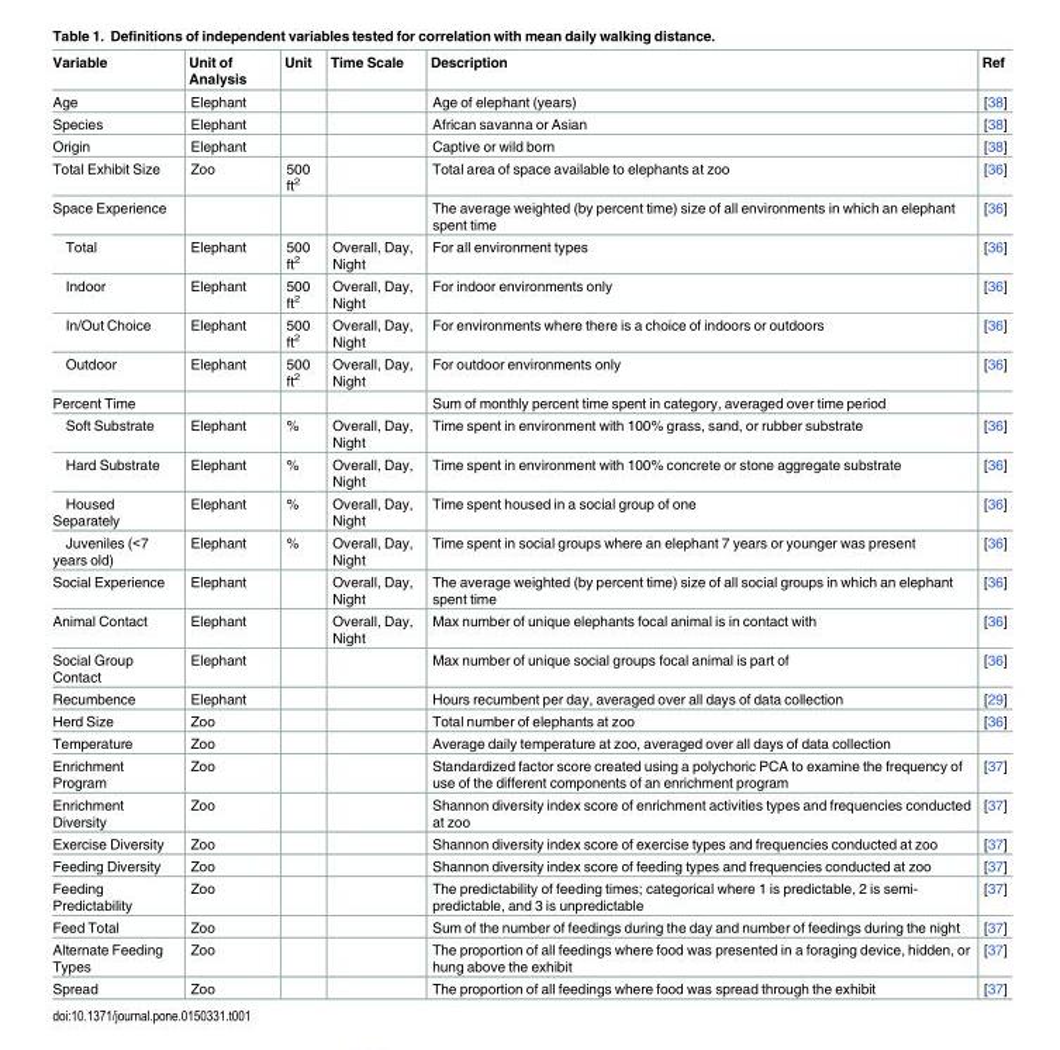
<table><thead><tr><td>Variable</td><td>Unit of Analysis</td><td>Unit</td><td>Time Scale</td><td>Description</td><td>Ref</td></tr></thead><tbody><tr><td>Age</td><td>Elephant</td><td></td><td></td><td>Age of elephant (years)</td><td>[38]</td></tr><tr><td>Species</td><td>Elephant</td><td></td><td></td><td>African savanna or Asian</td><td>[38]</td></tr><tr><td>Origin</td><td>Elephant</td><td></td><td></td><td>Captive or wild born</td><td>[38]</td></tr><tr><td>Total Exhibit Size</td><td>Zoo</td><td>500 ft<sup>2</sup></td><td></td><td>Total area of space available to elephants at zoo</td><td>[36]</td></tr><tr><td>Space Experience</td><td></td><td></td><td></td><td>The average weighted (by percent time) size of all environments in which an elephant spent time</td><td>[36]</td></tr><tr><td>Total</td><td>Elephant</td><td>500 ft<sup>2</sup></td><td>Overall, Day, Night</td><td>For all environment types</td><td>[36]</td></tr><tr><td>Indoor</td><td>Elephant</td><td>500 ft<sup>2</sup></td><td>Overall, Day, Night</td><td>For indoor environments only</td><td>[36]</td></tr><tr><td>In/Out Choice</td><td>Elephant</td><td>500 ft<sup>2</sup></td><td>Overall, Day, Night</td><td>For environments where there is a choice of indoors or outdoors</td><td>[36]</td></tr><tr><td>Outdoor</td><td>Elephant</td><td>500 ft<sup>2</sup></td><td>Overall, Day, Night</td><td>For outdoor environments only</td><td>[36]</td></tr><tr><td>Percent Time</td><td></td><td></td><td></td><td>Sum of monthly percent time spent in category, averaged over time period</td><td></td></tr><tr><td>Soft Substrate</td><td>Elephant</td><td>%</td><td>Overall, Day, Night</td><td>Time spent in environment with 100% grass, sand, or rubber substrate</td><td>[36]</td></tr><tr><td>Hard Substrate</td><td>Elephant</td><td>%</td><td>Overall, Day, Night</td><td>Time spent in environment with 100% concrete or stone aggregate substrate</td><td>[36]</td></tr><tr><td>Housed Separately</td><td>Elephant</td><td>%</td><td>Overall, Day, Night</td><td>Time spent housed in a social group of one</td><td>[36]</td></tr><tr><td>Juveniles (&lt;7 years old)</td><td>Elephant</td><td>%</td><td>Overall, Day, Night</td><td>Time spent in social groups where an elephant 7 years or younger was present</td><td>[36]</td></tr><tr><td>Social Experience</td><td>Elephant</td><td></td><td>Overall, Day, Night</td><td>The average weighted (by percent time) size of all social groups in which an elephant spent time</td><td>[36]</td></tr><tr><td>Animal Contact</td><td>Elephant</td><td></td><td>Overall, Day, Night</td><td>Max number of unique elephants focal animal is in contact with</td><td>[36]</td></tr><tr><td>Social Group Contact</td><td>Elephant</td><td></td><td></td><td>Max number of unique social groups focal animal is part of</td><td>[36]</td></tr><tr><td>Recumbence</td><td>Elephant</td><td></td><td></td><td>Hours recumbent per day, averaged over all days of data collection</td><td>[29]</td></tr><tr><td>Herd Size</td><td>Zoo</td><td></td><td></td><td>Total number of elephants at zoo</td><td>[36]</td></tr><tr><td>Temperature</td><td>Zoo</td><td></td><td></td><td>Average daily temperature at zoo, averaged over all days of data collection</td><td></td></tr><tr><td>Enrichment Program</td><td>Zoo</td><td></td><td></td><td>Standardized factor score created using a polychoric PCA to examine the frequency of use of the different components of an enrichment program</td><td>[37]</td></tr><tr><td>Enrichment Diversity</td><td>Zoo</td><td></td><td></td><td>Shannon diversity index score of enrichment activities types and frequencies conducted at zoo</td><td>[37]</td></tr><tr><td>Exercise Diversity</td><td>Zoo</td><td></td><td></td><td>Shannon diversity index score of exercise types and frequencies conducted at zoo</td><td>[37]</td></tr><tr><td>Feeding Diversity</td><td>Zoo</td><td></td><td></td><td>Shannon diversity index score of feeding types and frequencies conducted at zoo</td><td>[37]</td></tr><tr><td>Feeding Predictability</td><td>Zoo</td><td></td><td></td><td>The predictability of feeding times; categorical where 1 is predictable, 2 is semi- predictable, and 3 is unpredictable</td><td>[37]</td></tr><tr><td>Feed Total</td><td>Zoo</td><td></td><td></td><td>Sum of the number of feedings during the day and number of feedings during the night</td><td>[37]</td></tr><tr><td>Alternate Feeding Types</td><td>Zoo</td><td></td><td></td><td>The proportion of all feedings where food was presented in a foraging device, hidden, or hung above the exhibit</td><td>[37]</td></tr><tr><td>Spread</td><td>Zoo</td><td></td><td></td><td>The proportion of all feedings where food was spread through the exhibit</td><td>[37]</td></tr></tbody></table>